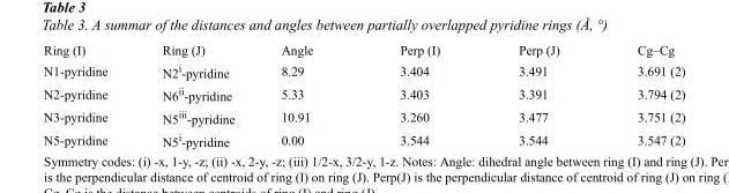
<table><tbody><tr><td>Ring (I)</td><td>Ring (J)</td><td>Angle</td><td>Perp (I)</td><td>Perp (J)</td><td>Cg–Cg</td></tr><tr><td>N1-pyridine</td><td>N2<sup>i</sup>-pyridine</td><td>8.29</td><td>3.404</td><td>3.491</td><td>3.691 (2)</td></tr><tr><td>N2-pyridine</td><td>N6<sup>ii</sup>-pyridine</td><td>5.33</td><td>3.403</td><td>3.391</td><td>3.794 (2)</td></tr><tr><td>N3-pyridine</td><td>N5<sup>iii</sup>-pyridine</td><td>10.91</td><td>3.260</td><td>3.477</td><td>3.751 (2)</td></tr><tr><td>N5-pyridine</td><td>N5<sup>i</sup>-pyridine</td><td>0.00</td><td>3.544</td><td>3.544</td><td>3.547 (2)</td></tr></tbody></table>